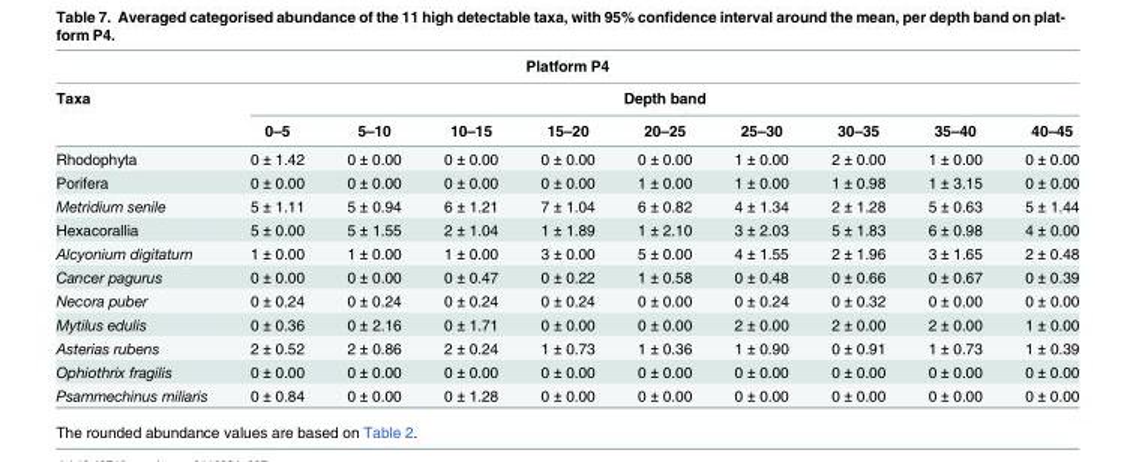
<table><thead><tr><td colspan="10">Platform P4</td></tr><tr><td rowspan="2">Taxa</td><td colspan="9">Depth band</td></tr><tr><td>0–5</td><td>5–10</td><td>10–15</td><td>15–20</td><td>20–25</td><td>25–30</td><td>30–35</td><td>35–40</td><td>40–45</td></tr></thead><tbody><tr><td>Rhodophyta</td><td>0 ± 1.42</td><td>0 ± 0.00</td><td>0 ± 0.00</td><td>0 ± 0.00</td><td>0 ± 0.00</td><td>1 ± 0.00</td><td>2 ± 0.00</td><td>1 ± 0.00</td><td>0 ± 0.00</td></tr><tr><td>Porifera</td><td>0 ± 0.00</td><td>0 ± 0.00</td><td>0 ± 0.00</td><td>0 ± 0.00</td><td>1 ± 0.00</td><td>1 ± 0.00</td><td>1 ± 0.98</td><td>1 ± 3.15</td><td>0 ± 0.00</td></tr><tr><td>Metridium senile</td><td>5 ± 1.11</td><td>5 ± 0.94</td><td>6 ± 1.21</td><td>7 ± 1.04</td><td>6 ± 0.82</td><td>4 ± 1.34</td><td>2 ± 1.28</td><td>5 ± 0.63</td><td>5 ± 1.44</td></tr><tr><td>Hexacorallia</td><td>5 ± 0.00</td><td>5 ± 1.55</td><td>2 ± 1.04</td><td>1 ± 1.89</td><td>1 ± 2.10</td><td>3 ± 2.03</td><td>5 ± 1.83</td><td>6 ± 0.98</td><td>4 ± 0.00</td></tr><tr><td>Alcyonium digitatum</td><td>1 ± 0.00</td><td>1 ± 0.00</td><td>1 ± 0.00</td><td>3 ± 0.00</td><td>5 ± 0.00</td><td>4 ± 1.55</td><td>2 ± 1.96</td><td>3 ± 1.65</td><td>2 ± 0.48</td></tr><tr><td>Cancer pagurus</td><td>0 ± 0.00</td><td>0 ± 0.00</td><td>0 ± 0.47</td><td>0 ± 0.22</td><td>1 ± 0.58</td><td>0 ± 0.48</td><td>0 ± 0.66</td><td>0 ± 0.67</td><td>0 ± 0.39</td></tr><tr><td>Necora puber</td><td>0 ± 0.24</td><td>0 ± 0.24</td><td>0 ± 0.24</td><td>0 ± 0.24</td><td>0 ± 0.00</td><td>0 ± 0.24</td><td>0 ± 0.32</td><td>0 ± 0.00</td><td>0 ± 0.00</td></tr><tr><td>Mytilus edulis</td><td>0 ± 0.36</td><td>0 ± 2.16</td><td>0 ± 1.71</td><td>0 ± 0.00</td><td>0 ± 0.00</td><td>2 ± 0.00</td><td>2 ± 0.00</td><td>2 ± 0.00</td><td>1 ± 0.00</td></tr><tr><td>Asterias rubens</td><td>2 ± 0.52</td><td>2 ± 0.86</td><td>2 ± 0.24</td><td>1 ± 0.73</td><td>1 ± 0.36</td><td>1 ± 0.90</td><td>0 ± 0.91</td><td>1 ± 0.73</td><td>1 ± 0.39</td></tr><tr><td>Ophiothrix fragilis</td><td>0 ± 0.00</td><td>0 ± 0.00</td><td>0 ± 0.00</td><td>0 ± 0.00</td><td>0 ± 0.00</td><td>0 ± 0.00</td><td>0 ± 0.00</td><td>0 ± 0.00</td><td>0 ± 0.00</td></tr><tr><td>Psammechinus miliaris</td><td>0 ± 0.84</td><td>0 ± 0.00</td><td>0 ± 1.28</td><td>0 ± 0.00</td><td>0 ± 0.00</td><td>0 ± 0.00</td><td>0 ± 0.00</td><td>0 ± 0.00</td><td>0 ± 0.00</td></tr></tbody></table>